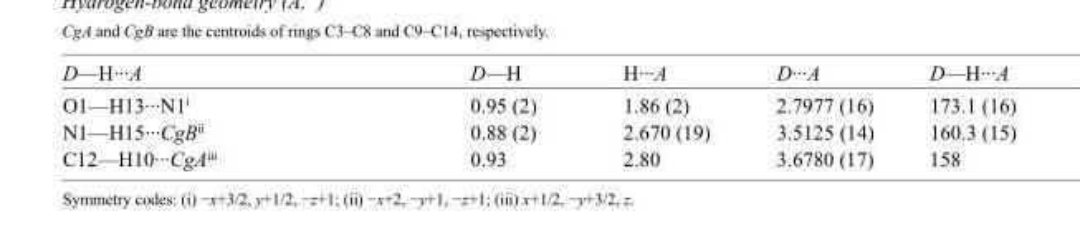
<table><tbody><tr><td>D—H···A</td><td>D—H</td><td>H···A</td><td>D···A</td><td>D—H···A</td></tr><tr><td>O1—H13···N1<sup>i</sup></td><td>0.95 (2)</td><td>1.86 (2)</td><td>2.7977 (16)</td><td>173.1 (16)</td></tr><tr><td>N1—H15···CgB<sup>ii</sup></td><td>0.88 (2)</td><td>2.670 (19)</td><td>3.5125 (14)</td><td>160.3 (15)</td></tr><tr><td>C12—H10···CgA<sup>iii</sup></td><td>0.93</td><td>2.80</td><td>3.6780 (17)</td><td>158</td></tr></tbody></table>